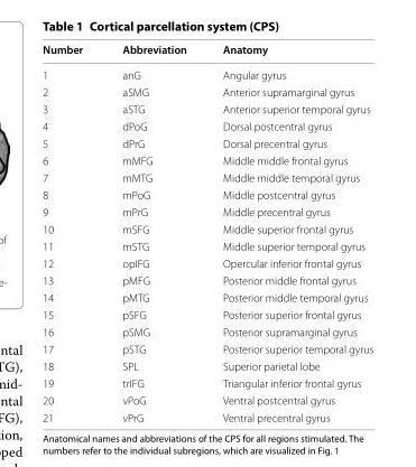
<table><thead><tr><td>Number</td><td>Abbreviation</td><td>Anatomy</td></tr></thead><tbody><tr><td>1</td><td>anG</td><td>Angular gyrus</td></tr><tr><td>2</td><td>aSMG</td><td>Anterior supramarginal gyrus</td></tr><tr><td>3</td><td>aSTG</td><td>Anterior superior temporal gyrus</td></tr><tr><td>4</td><td>dPoG</td><td>Dorsal postcentral gyrus</td></tr><tr><td>5</td><td>dPrG</td><td>Dorsal precentral gyrus</td></tr><tr><td>6</td><td>mMFG</td><td>Middle middle frontal gyrus</td></tr><tr><td>7</td><td>mMTG</td><td>Middle middle temporal gyrus</td></tr><tr><td>8</td><td>mPoG</td><td>Middle postcentral gyrus</td></tr><tr><td>9</td><td>mPrG</td><td>Middle precentral gyrus</td></tr><tr><td>10</td><td>mSFG</td><td>Middle superior frontal gyrus</td></tr><tr><td>11</td><td>mSTG</td><td>Middle superior temporal gyrus</td></tr><tr><td>12</td><td>opIFG</td><td>Opercular inferior frontal gyrus</td></tr><tr><td>13</td><td>pMFG</td><td>Posterior middle frontal gyrus</td></tr><tr><td>14</td><td>pMTG</td><td>Posterior middle temporal gyrus</td></tr><tr><td>15</td><td>pSFG</td><td>Posterior superior frontal gyrus</td></tr><tr><td>16</td><td>pSMG</td><td>Posterior supramarginal gyrus</td></tr><tr><td>17</td><td>pSTG</td><td>Posterior superior temporal gyrus</td></tr><tr><td>18</td><td>SPL</td><td>Superior parietal lobe</td></tr><tr><td>19</td><td>trIFG</td><td>Triangular inferior frontal gyrus</td></tr><tr><td>20</td><td>vPoG</td><td>Ventral postcentral gyrus</td></tr><tr><td>21</td><td>vPrG</td><td>Ventral precentral gyrus</td></tr></tbody></table>